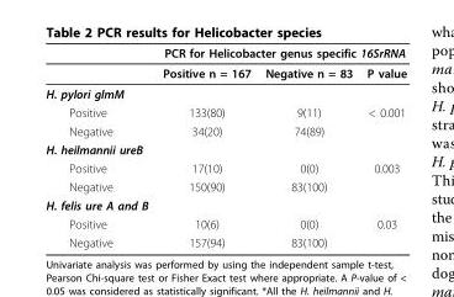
<table><thead><tr><td rowspan="2"></td><td colspan="3">PCR for Helicobacter genus specific 16SrRNA</td></tr><tr><td>Positive n = 167</td><td>Negative n = 83</td><td>P value</td></tr></thead><tbody><tr><td colspan="4">H. pylori glmM</td></tr><tr><td>Positive</td><td>133(80)</td><td>9(11)</td><td>&lt; 0.001</td></tr><tr><td>Negative</td><td>34(20)</td><td>74(89)</td><td></td></tr><tr><td colspan="4">H. heilmannii ureB</td></tr><tr><td>Positive</td><td>17(10)</td><td>0(0)</td><td>0.003</td></tr><tr><td>Negative</td><td>150(90)</td><td>83(100)</td><td></td></tr><tr><td colspan="4">H. felis ure A and B</td></tr><tr><td>Positive</td><td>10(6)</td><td>0(0)</td><td>0.03</td></tr><tr><td>Negative</td><td>157(94)</td><td>83(100)</td><td></td></tr></tbody></table>